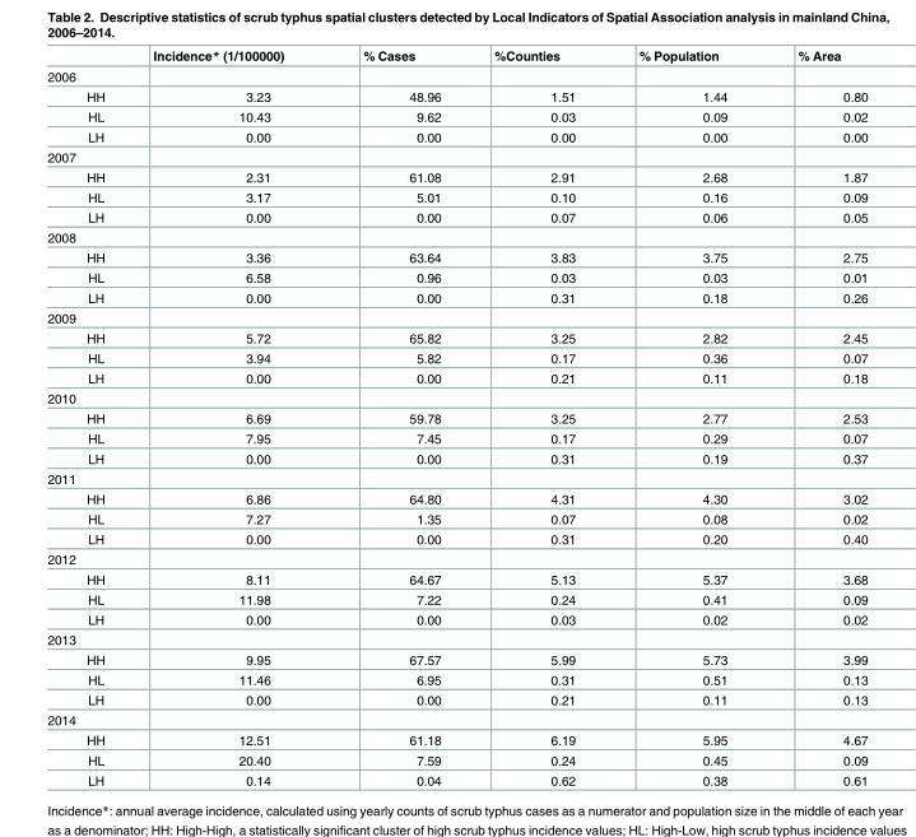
<table><thead><tr><td></td><td>Incidence* (1/100000)</td><td>% Cases</td><td>%Counties</td><td>% Population</td><td>% Area</td></tr></thead><tbody><tr><td colspan="6">2006</td></tr><tr><td>HH</td><td>3.23</td><td>48.96</td><td>1.51</td><td>1.44</td><td>0.80</td></tr><tr><td>HL</td><td>10.43</td><td>9.62</td><td>0.03</td><td>0.09</td><td>0.02</td></tr><tr><td>LH</td><td>0.00</td><td>0.00</td><td>0.00</td><td>0.00</td><td>0.00</td></tr><tr><td colspan="6">2007</td></tr><tr><td>HH</td><td>2.31</td><td>61.08</td><td>2.91</td><td>2.68</td><td>1.87</td></tr><tr><td>HL</td><td>3.17</td><td>5.01</td><td>0.10</td><td>0.16</td><td>0.09</td></tr><tr><td>LH</td><td>0.00</td><td>0.00</td><td>0.07</td><td>0.06</td><td>0.05</td></tr><tr><td colspan="6">2008</td></tr><tr><td>HH</td><td>3.36</td><td>63.64</td><td>3.83</td><td>3.75</td><td>2.75</td></tr><tr><td>HL</td><td>6.58</td><td>0.96</td><td>0.03</td><td>0.03</td><td>0.01</td></tr><tr><td>LH</td><td>0.00</td><td>0.00</td><td>0.31</td><td>0.18</td><td>0.26</td></tr><tr><td colspan="6">2009</td></tr><tr><td>HH</td><td>5.72</td><td>65.82</td><td>3.25</td><td>2.82</td><td>2.45</td></tr><tr><td>HL</td><td>3.94</td><td>5.82</td><td>0.17</td><td>0.36</td><td>0.07</td></tr><tr><td>LH</td><td>0.00</td><td>0.00</td><td>0.21</td><td>0.11</td><td>0.18</td></tr><tr><td colspan="6">2010</td></tr><tr><td>HH</td><td>6.69</td><td>59.78</td><td>3.25</td><td>2.77</td><td>2.53</td></tr><tr><td>HL</td><td>7.95</td><td>7.45</td><td>0.17</td><td>0.29</td><td>0.07</td></tr><tr><td>LH</td><td>0.00</td><td>0.00</td><td>0.31</td><td>0.19</td><td>0.37</td></tr><tr><td colspan="6">2011</td></tr><tr><td>HH</td><td>6.86</td><td>64.80</td><td>4.31</td><td>4.30</td><td>3.02</td></tr><tr><td>HL</td><td>7.27</td><td>1.35</td><td>0.07</td><td>0.08</td><td>0.02</td></tr><tr><td>LH</td><td>0.00</td><td>0.00</td><td>0.31</td><td>0.20</td><td>0.40</td></tr><tr><td colspan="6">2012</td></tr><tr><td>HH</td><td>8.11</td><td>64.67</td><td>5.13</td><td>5.37</td><td>3.68</td></tr><tr><td>HL</td><td>11.98</td><td>7.22</td><td>0.24</td><td>0.41</td><td>0.09</td></tr><tr><td>LH</td><td>0.00</td><td>0.00</td><td>0.03</td><td>0.02</td><td>0.02</td></tr><tr><td colspan="6">2013</td></tr><tr><td>HH</td><td>9.95</td><td>67.57</td><td>5.99</td><td>5.73</td><td>3.99</td></tr><tr><td>HL</td><td>11.46</td><td>6.95</td><td>0.31</td><td>0.51</td><td>0.13</td></tr><tr><td>LH</td><td>0.00</td><td>0.00</td><td>0.21</td><td>0.11</td><td>0.13</td></tr><tr><td colspan="6">2014</td></tr><tr><td>HH</td><td>12.51</td><td>61.18</td><td>6.19</td><td>5.95</td><td>4.67</td></tr><tr><td>HL</td><td>20.40</td><td>7.59</td><td>0.24</td><td>0.45</td><td>0.09</td></tr><tr><td>LH</td><td>0.14</td><td>0.04</td><td>0.62</td><td>0.38</td><td>0.61</td></tr></tbody></table>